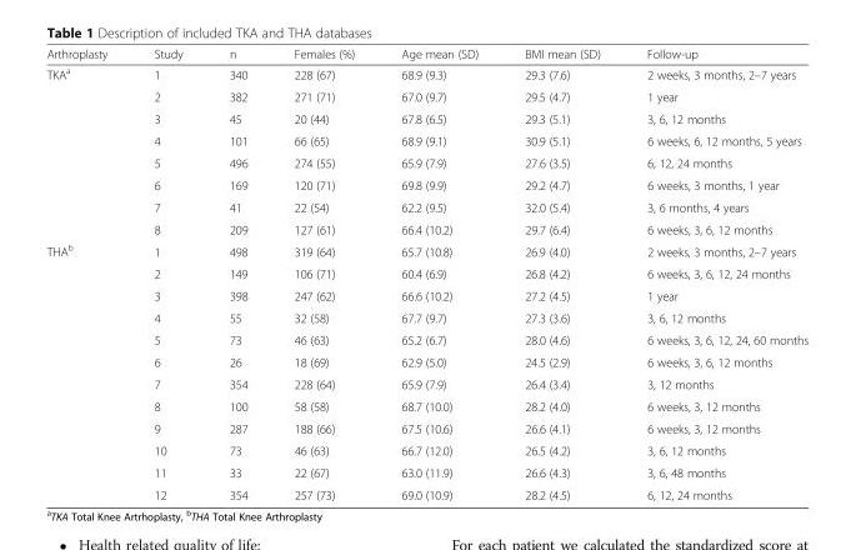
<table><thead><tr><td>Arthroplasty</td><td>Study</td><td>n</td><td>Females (%)</td><td>Age mean (SD)</td><td>BMI mean (SD)</td><td>Follow-up</td></tr></thead><tbody><tr><td rowspan="8">TKA<sup>a</sup></td><td>1</td><td>340</td><td>228 (67)</td><td>68.9 (9.3)</td><td>29.3 (7.6)</td><td>2 weeks, 3 months, 2–7 years</td></tr><tr><td>2</td><td>382</td><td>271 (71)</td><td>67.0 (9.7)</td><td>29.5 (4.7)</td><td>1 year</td></tr><tr><td>3</td><td>45</td><td>20 (44)</td><td>67.8 (6.5)</td><td>29.3 (5.1)</td><td>3, 6, 12 months</td></tr><tr><td>4</td><td>101</td><td>66 (65)</td><td>68.9 (9.1)</td><td>30.9 (5.1)</td><td>6 weeks, 6, 12 months, 5 years</td></tr><tr><td>5</td><td>496</td><td>274 (55)</td><td>65.9 (7.9)</td><td>27.6 (3.5)</td><td>6, 12, 24 months</td></tr><tr><td>6</td><td>169</td><td>120 (71)</td><td>69.8 (9.9)</td><td>29.2 (4.7)</td><td>6 weeks, 3 months, 1 year</td></tr><tr><td>7</td><td>41</td><td>22 (54)</td><td>62.2 (9.5)</td><td>32.0 (5.4)</td><td>3, 6 months, 4 years</td></tr><tr><td>8</td><td>209</td><td>127 (61)</td><td>66.4 (10.2)</td><td>29.7 (6.4)</td><td>6 weeks, 3, 6, 12 months</td></tr><tr><td rowspan="12">THA<sup>b</sup></td><td>1</td><td>498</td><td>319 (64)</td><td>65.7 (10.8)</td><td>26.9 (4.0)</td><td>2 weeks, 3 months, 2–7 years</td></tr><tr><td>2</td><td>149</td><td>106 (71)</td><td>60.4 (6.9)</td><td>26.8 (4.2)</td><td>6 weeks, 3, 6, 12, 24 months</td></tr><tr><td>3</td><td>398</td><td>247 (62)</td><td>66.6 (10.2)</td><td>27.2 (4.5)</td><td>1 year</td></tr><tr><td>4</td><td>55</td><td>32 (58)</td><td>67.7 (9.7)</td><td>27.3 (3.6)</td><td>3, 6, 12 months</td></tr><tr><td>5</td><td>73</td><td>46 (63)</td><td>65.2 (6.7)</td><td>28.0 (4.6)</td><td>6 weeks, 3, 6, 12, 24, 60 months</td></tr><tr><td>6</td><td>26</td><td>18 (69)</td><td>62.9 (5.0)</td><td>24.5 (2.9)</td><td>6 weeks, 3, 6, 12 months</td></tr><tr><td>7</td><td>354</td><td>228 (64)</td><td>65.9 (7.9)</td><td>26.4 (3.4)</td><td>3, 12 months</td></tr><tr><td>8</td><td>100</td><td>58 (58)</td><td>68.7 (10.0)</td><td>28.2 (4.0)</td><td>6 weeks, 3, 12 months</td></tr><tr><td>9</td><td>287</td><td>188 (66)</td><td>67.5 (10.6)</td><td>26.6 (4.1)</td><td>6 weeks, 3, 12 months</td></tr><tr><td>10</td><td>73</td><td>46 (63)</td><td>66.7 (12.0)</td><td>26.5 (4.2)</td><td>3, 6, 12 months</td></tr><tr><td>11</td><td>33</td><td>22 (67)</td><td>63.0 (11.9)</td><td>26.6 (4.3)</td><td>3, 6, 48 months</td></tr><tr><td>12</td><td>354</td><td>257 (73)</td><td>69.0 (10.9)</td><td>28.2 (4.5)</td><td>6, 12, 24 months</td></tr></tbody></table>